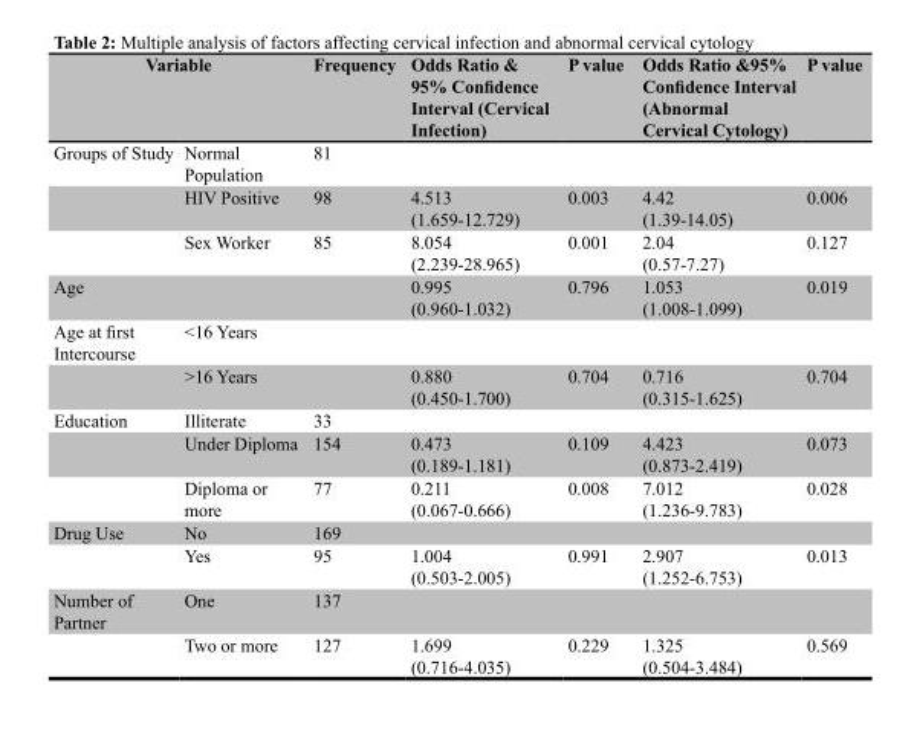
<table><thead><tr><td colspan="2">Variable</td><td rowspan="2">Frequency 81</td><td rowspan="2">Odds Ratio &amp; 95% Confidence Interval (Cervical Infection)</td><td rowspan="2">P value</td><td rowspan="2">Odds Ratio &amp;95% Confidence Interval (Abnormal Cervical Cytology)</td><td rowspan="2">P value</td></tr><tr><td>Groups of Study</td><td>Normal Population</td></tr></thead><tbody><tr><td></td><td>HIV Positive</td><td>98</td><td>4.513 (1.659-12.729)</td><td>0.003</td><td>4.42 (1.39-14.05)</td><td>0.006</td></tr><tr><td></td><td>Sex Worker</td><td>85</td><td>8.054 (2.239-28.965)</td><td>0.001</td><td>2.04 (0.57-7.27)</td><td>0.127</td></tr><tr><td>Age</td><td></td><td></td><td>0.995 (0.960-1.032)</td><td>0.796</td><td>1.053 (1.008-1.099)</td><td>0.019</td></tr><tr><td rowspan="2">Age at first Intercourse</td><td>&lt;16 Years</td><td></td><td></td><td></td><td></td><td></td></tr><tr><td>&gt;16 Years</td><td></td><td>0.880 (0.450-1.700)</td><td>0.704</td><td>0.716 (0.315-1.625)</td><td>0.704</td></tr><tr><td rowspan="3">Education</td><td>Illiterate</td><td>33</td><td></td><td></td><td></td><td></td></tr><tr><td>Under Diploma</td><td>154</td><td>0.473 (0.189-1.181)</td><td>0.109</td><td>4.423 (0.873-2.419)</td><td>0.073</td></tr><tr><td>Diploma or more</td><td>77</td><td>0.211 (0.067-0.666)</td><td>0.008</td><td>7.012 (1.236-9.783)</td><td>0.028</td></tr><tr><td rowspan="2">Drug Use</td><td>No</td><td>169</td><td></td><td></td><td></td><td></td></tr><tr><td>Yes</td><td>95</td><td>1.004 (0.503-2.005)</td><td>0.991</td><td>2.907 (1.252-6.753)</td><td>0.013</td></tr><tr><td rowspan="2">Number of Partner</td><td>One</td><td>137</td><td></td><td></td><td></td><td></td></tr><tr><td>Two or more</td><td>127</td><td>1.699 (0.716-4.035)</td><td>0.229</td><td>1.325 (0.504-3.484)</td><td>0.569</td></tr></tbody></table>